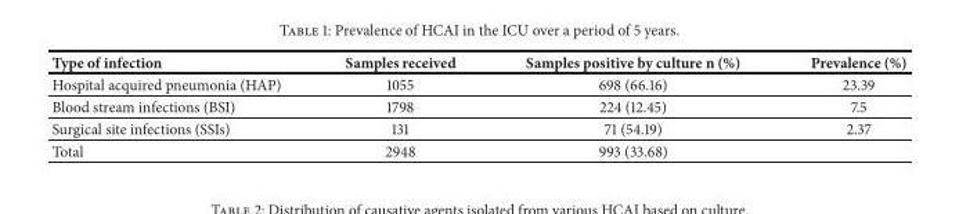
<table><thead><tr><td>Type of infection</td><td>Samples received</td><td>Samples positive by culture n (%)</td><td>Prevalence (%)</td></tr></thead><tbody><tr><td>Hospital acquired pneumonia (HAP)</td><td>1055</td><td>698 (66.16)</td><td>23.39</td></tr><tr><td>Blood stream infections (BSI)</td><td>1798</td><td>224 (12.45)</td><td>7.5</td></tr><tr><td>Surgical site infections (SSIs)</td><td>131</td><td>71 (54.19)</td><td>2.37</td></tr><tr><td>Total</td><td>2948</td><td>993 (33.68)</td><td></td></tr></tbody></table>